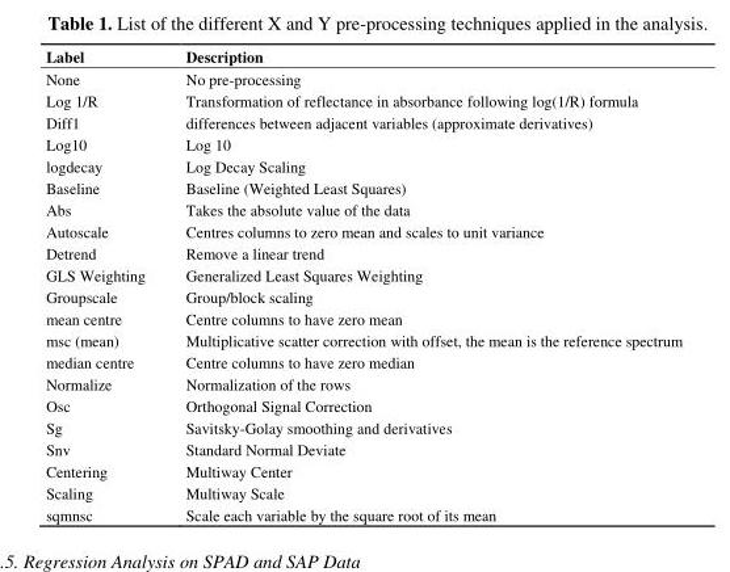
<table><thead><tr><td>Label</td><td>Description</td></tr></thead><tbody><tr><td>None</td><td>No pre-processing</td></tr><tr><td>Log 1/R</td><td>Transformation of reflectance in absorbance following log(1/R) formula</td></tr><tr><td>Diff1</td><td>differences between adjacent variables (approximate derivatives)</td></tr><tr><td>Log10</td><td>Log 10</td></tr><tr><td>logdecay</td><td>Log Decay Scaling</td></tr><tr><td>Baseline</td><td>Baseline (Weighted Least Squares)</td></tr><tr><td>Abs</td><td>Takes the absolute value of the data</td></tr><tr><td>Autoscale</td><td>Centres columns to zero mean and scales to unit variance</td></tr><tr><td>Detrend</td><td>Remove a linear trend</td></tr><tr><td>GLS Weighting</td><td>Generalized Least Squares Weighting</td></tr><tr><td>Groupscale</td><td>Group/block scaling</td></tr><tr><td>mean centre</td><td>Centre columns to have zero mean</td></tr><tr><td>msc (mean)</td><td>Multiplicative scatter correction with offset, the mean is the reference spectrum</td></tr><tr><td>median centre</td><td>Centre columns to have zero median</td></tr><tr><td>Normalize</td><td>Normalization of the rows</td></tr><tr><td>Osc</td><td>Orthogonal Signal Correction</td></tr><tr><td>Sg</td><td>Savitsky-Golay smoothing and derivatives</td></tr><tr><td>Snv</td><td>Standard Normal Deviate</td></tr><tr><td>Centering</td><td>Multiway Center</td></tr><tr><td>Scaling</td><td>Multiway Scale</td></tr><tr><td>sqmnsc</td><td>Scale each variable by the square root of its mean</td></tr></tbody></table>